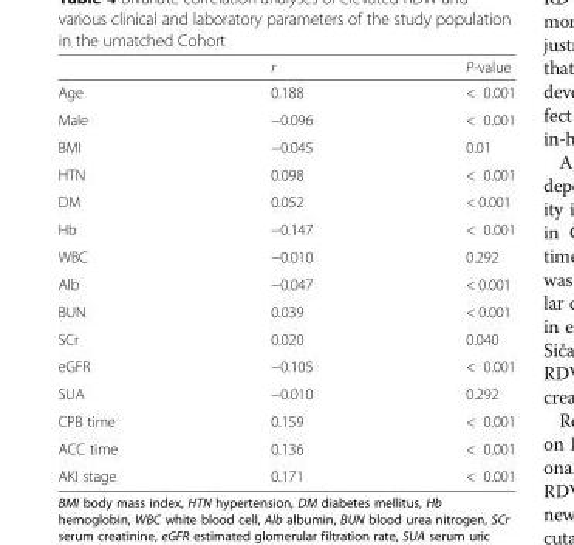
<table><thead><tr><td></td><td>r</td><td>P-value</td></tr></thead><tbody><tr><td>Age</td><td>0.188</td><td>&lt; 0.001</td></tr><tr><td>Male</td><td>−0.096</td><td>&lt; 0.001</td></tr><tr><td>BMI</td><td>−0.045</td><td>0.01</td></tr><tr><td>HTN</td><td>0.098</td><td>&lt; 0.001</td></tr><tr><td>DM</td><td>0.052</td><td>&lt; 0.001</td></tr><tr><td>Hb</td><td>−0.147</td><td>&lt; 0.001</td></tr><tr><td>WBC</td><td>−0.010</td><td>0.292</td></tr><tr><td>Alb</td><td>−0.047</td><td>&lt; 0.001</td></tr><tr><td>BUN</td><td>0.039</td><td>&lt; 0.001</td></tr><tr><td>SCr</td><td>0.020</td><td>0.040</td></tr><tr><td>eGFR</td><td>−0.105</td><td>&lt; 0.001</td></tr><tr><td>SUA</td><td>−0.010</td><td>0.292</td></tr><tr><td>CPB time</td><td>0.159</td><td>&lt; 0.001</td></tr><tr><td>ACC time</td><td>0.136</td><td>&lt; 0.001</td></tr><tr><td>AKI stage</td><td>0.171</td><td>&lt; 0.001</td></tr></tbody></table>